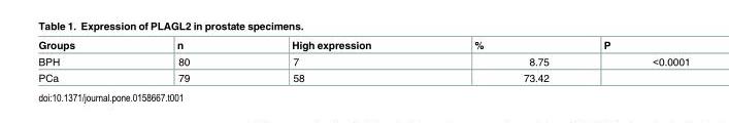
<table><thead><tr><td>Groups</td><td>n</td><td>High expression</td><td>%</td><td>P</td></tr></thead><tbody><tr><td>BPH</td><td>80</td><td>7</td><td>8.75</td><td>&lt;0.0001</td></tr><tr><td>PCa</td><td>79</td><td>58</td><td>73.42</td><td></td></tr></tbody></table>